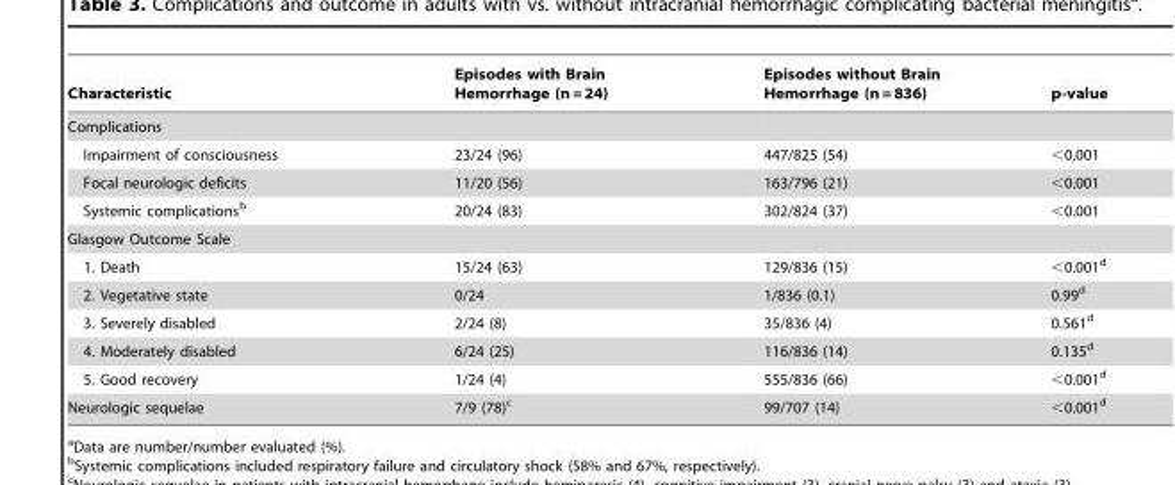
<table><thead><tr><td>Characteristic</td><td>Episodes with Brain Hemorrhage (n = 24)</td><td>Episodes without Brain Hemorrhage (n = 836)</td><td>p-value</td></tr></thead><tbody><tr><td colspan="4">Complications</td></tr><tr><td>Impairment of consciousness</td><td>23/24 (96)</td><td>447/825 (54)</td><td>&lt;0,001</td></tr><tr><td>Focal neurologic deficits</td><td>11/20 (56)</td><td>163/796 (21)</td><td>&lt;0.001</td></tr><tr><td>Systemic complications<sup>b</sup></td><td>20/24 (83)</td><td>302/824 (37)</td><td>&lt;0.001</td></tr><tr><td colspan="4">Glasgow Outcome Scale</td></tr><tr><td>1. Death</td><td>15/24 (63)</td><td>129/836 (15)</td><td>&lt;0.001<sup>d</sup></td></tr><tr><td>2. Vegetative state</td><td>0/24</td><td>1/836 (0.1)</td><td>0.99<sup>d</sup></td></tr><tr><td>3. Severely disabled</td><td>2/24 (8)</td><td>35/836 (4)</td><td>0.561<sup>d</sup></td></tr><tr><td>4. Moderately disabled</td><td>6/24 (25)</td><td>116/836 (14)</td><td>0.135<sup>d</sup></td></tr><tr><td>5. Good recovery</td><td>1/24 (4)</td><td>555/836 (66)</td><td>&lt;0.001<sup>d</sup></td></tr><tr><td>Neurologic sequelae</td><td>7/9 (78)<sup>c</sup></td><td>99/707 (14)</td><td>&lt;0.001<sup>d</sup></td></tr></tbody></table>